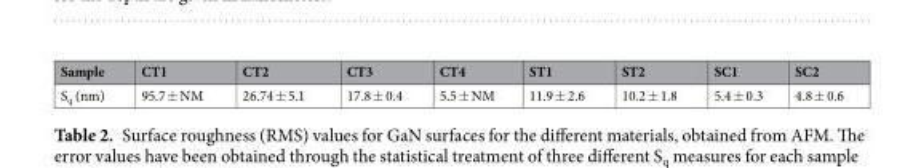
<table><thead><tr><td>Sample</td><td>CT1</td><td>CT2</td><td>CT3</td><td>CT4</td><td>ST1</td><td>ST2</td><td>SC1</td><td>SC2</td></tr></thead><tbody><tr><td>S<sub>q</sub> (nm)</td><td>95.7 ± NM</td><td>26.74 ± 5.1</td><td>17.8 ± 0.4</td><td>5.5 ± NM</td><td>11.9 ± 2.6</td><td>10.2 ± 1.8</td><td>5.4 ± 0.3</td><td>4.8 ± 0.6</td></tr></tbody></table>